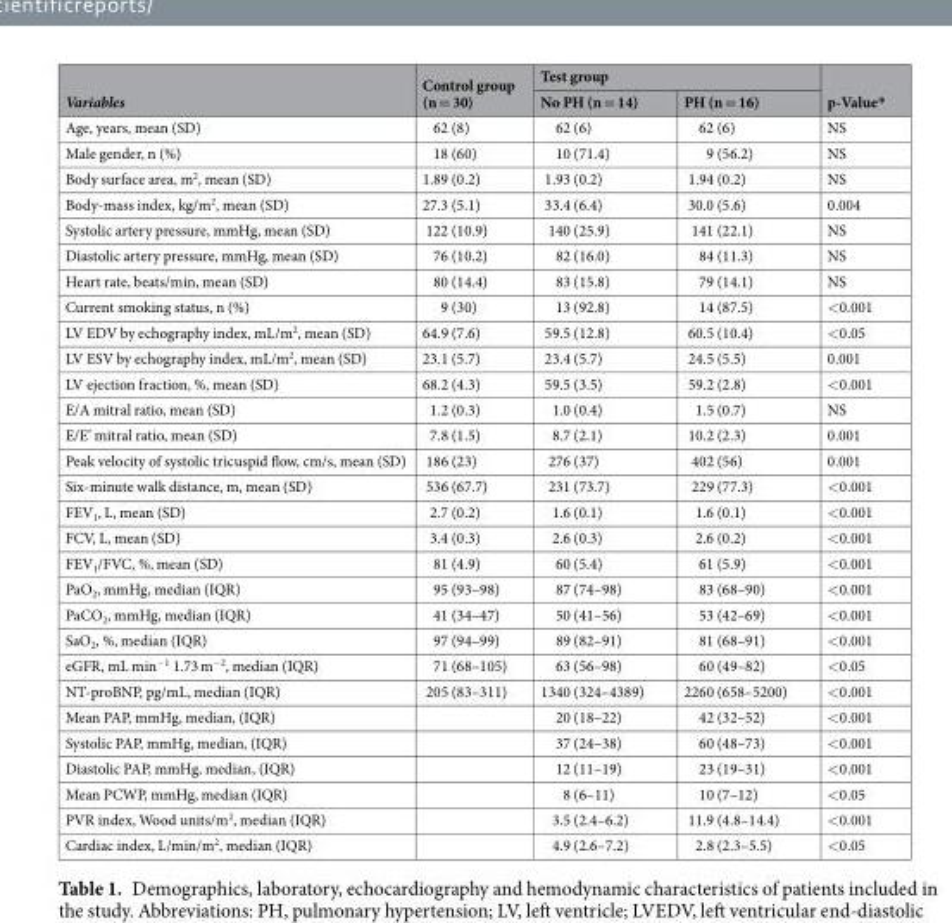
<table><thead><tr><td rowspan="2">Variables</td><td rowspan="2">Control group (n = 30)</td><td colspan="2">Test group</td><td rowspan="2">p-Value*</td></tr><tr><td>No PH (n = 14)</td><td>PH (n = 16)</td></tr></thead><tbody><tr><td>Age, years, mean (SD)</td><td>62 (8)</td><td>62 (6)</td><td>62 (6)</td><td>NS</td></tr><tr><td>Male gender, n (%)</td><td>18 (60)</td><td>10 (71.4)</td><td>9 (56.2)</td><td>NS</td></tr><tr><td>Body surface area, m<sup>2</sup>, mean (SD)</td><td>1.89 (0.2)</td><td>1.93 (0.2)</td><td>1.94 (0.2)</td><td>NS</td></tr><tr><td>Body-mass index, kg/m<sup>2</sup>, mean (SD)</td><td>27.3 (5.1)</td><td>33.4 (6.4)</td><td>30.0 (5.6)</td><td>0.004</td></tr><tr><td>Systolic artery pressure, mmHg, mean (SD)</td><td>122 (10.9)</td><td>140 (25.9)</td><td>141 (22.1)</td><td>NS</td></tr><tr><td>Diastolic artery pressure, mmHg, mean (SD)</td><td>76 (10.2)</td><td>82 (16.0)</td><td>84 (11.3)</td><td>NS</td></tr><tr><td>Heart rate, beats/min, mean (SD)</td><td>80 (14.4)</td><td>83 (15.8)</td><td>79 (14.1)</td><td>NS</td></tr><tr><td>Current smoking status, n (%)</td><td>9 (30)</td><td>13 (92.8)</td><td>14 (87.5)</td><td>&lt;0.001</td></tr><tr><td>LV EDV by echography index, mL/m<sup>2</sup>, mean (SD)</td><td>64.9 (7.6)</td><td>59.5 (12.8)</td><td>60.5 (10.4)</td><td>&lt;0.05</td></tr><tr><td>LV ESV by echography index, mL/m<sup>2</sup>, mean (SD)</td><td>23.1 (5.7)</td><td>23.4 (5.7)</td><td>24.5 (5.5)</td><td>0.001</td></tr><tr><td>LV ejection fraction, %, mean (SD)</td><td>68.2 (4.3)</td><td>59.5 (3.5)</td><td>59.2 (2.8)</td><td>&lt;0.001</td></tr><tr><td>E/A mitral ratio, mean (SD)</td><td>1.2 (0.3)</td><td>1.0 (0.4)</td><td>1.5 (0.7)</td><td>NS</td></tr><tr><td>E/E’ mitral ratio, mean (SD)</td><td>7.8 (1.5)</td><td>8.7 (2.1)</td><td>10.2 (2.3)</td><td>0.001</td></tr><tr><td>Peak velocity of systolic tricuspid flow, cm/s, mean (SD)</td><td>186 (23)</td><td>276 (37)</td><td>402 (56)</td><td>0.001</td></tr><tr><td>Six-minute walk distance, m, mean (SD)</td><td>536 (67.7)</td><td>231 (73.7)</td><td>229 (77.3)</td><td>&lt;0.001</td></tr><tr><td>FEV<sub>1</sub>, L, mean (SD)</td><td>2.7 (0.2)</td><td>1.6 (0.1)</td><td>1.6 (0.1)</td><td>&lt;0.001</td></tr><tr><td>FCV, L, mean (SD)</td><td>3.4 (0.3)</td><td>2.6 (0.3)</td><td>2.6 (0.2)</td><td>&lt;0.001</td></tr><tr><td>FEV<sub>1</sub>/FVC, %, mean (SD)</td><td>81 (4.9)</td><td>60 (5.4)</td><td>61 (5.9)</td><td>&lt;0.001</td></tr><tr><td>PaO<sub>2</sub>, mmHg, median (IQR)</td><td>95 (93–98)</td><td>87 (74–98)</td><td>83 (68–90)</td><td>&lt;0.001</td></tr><tr><td>PaCO<sub>2</sub>, mmHg, median (IQR)</td><td>41 (34–47)</td><td>50 (41–56)</td><td>53 (42–69)</td><td>&lt;0.001</td></tr><tr><td>SaO<sub>2</sub>, %, median (IQR)</td><td>97 (94–99)</td><td>89 (82–91)</td><td>81 (68–91)</td><td>&lt;0.001</td></tr><tr><td>eGFR, mL min<sup>−1</sup> 1.73 m<sup>−2</sup>, median (IQR)</td><td>71 (68–105)</td><td>63 (56–98)</td><td>60 (49–82)</td><td>&lt;0.05</td></tr><tr><td>NT-proBNP, pg/mL, median (IQR)</td><td>205 (83–311)</td><td>1340 (324–4389)</td><td>2260 (658–5200)</td><td>&lt;0.001</td></tr><tr><td>Mean PAP, mmHg, median, (IQR)</td><td></td><td>20 (18–22)</td><td>42 (32–52)</td><td>&lt;0.001</td></tr><tr><td>Systolic PAP, mmHg, median, (IQR)</td><td></td><td>37 (24–38)</td><td>60 (48–73)</td><td>&lt;0.001</td></tr><tr><td>Diastolic PAP, mmHg, median, (IQR)</td><td></td><td>12 (11–19)</td><td>23 (19–31)</td><td>&lt;0.001</td></tr><tr><td>Mean PCWP, mmHg, median (IQR)</td><td></td><td>8 (6–11)</td><td>10 (7–12)</td><td>&lt;0.05</td></tr><tr><td>PVR index, Wood units/m<sup>2</sup>, median (IQR)</td><td></td><td>3.5 (2.4–6.2)</td><td>11.9 (4.8–14.4)</td><td>&lt;0.001</td></tr><tr><td>Cardiac index, L/min/m<sup>2</sup>, median (IQR)</td><td></td><td>4.9 (2.6–7.2)</td><td>2.8 (2.3–5.5)</td><td>&lt;0.05</td></tr></tbody></table>